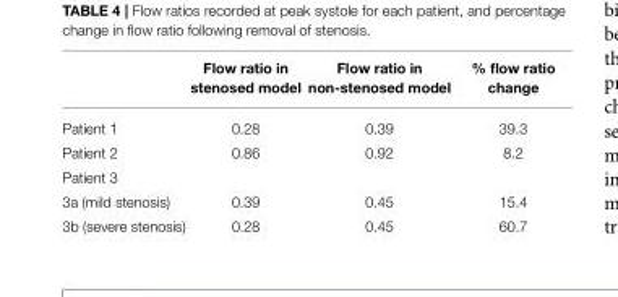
<table><thead><tr><td></td><td>Flow ratio in stenosed model</td><td>Flow ratio in non-stenosed model</td><td>% flow ratio change</td></tr></thead><tbody><tr><td>Patient 1</td><td>0.28</td><td>0.39</td><td>39.3</td></tr><tr><td>Patient 2</td><td>0.86</td><td>0.92</td><td>8.2</td></tr><tr><td colspan="4">Patient 3</td></tr><tr><td>3a (mild stenosis)</td><td>0.39</td><td>0.45</td><td>15.4</td></tr><tr><td>3b (severe stenosis)</td><td>0.28</td><td>0.45</td><td>60.7</td></tr></tbody></table>